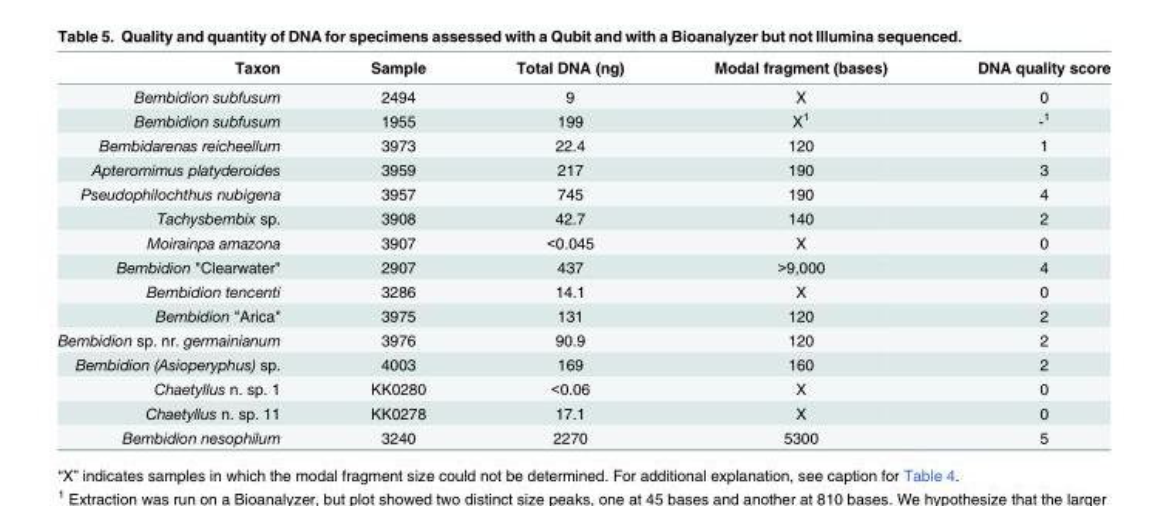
<table><thead><tr><td>Taxon</td><td>Sample</td><td>Total DNA (ng)</td><td>Modal fragment (bases)</td><td>DNA quality score</td></tr></thead><tbody><tr><td>Bembidion subfusum</td><td>2494</td><td>9</td><td>X</td><td>0</td></tr><tr><td>Bembidion subfusum</td><td>1955</td><td>199</td><td>X<sup>1</sup></td><td>-<sup>1</sup></td></tr><tr><td>Bembidarenas reicheellum</td><td>3973</td><td>22.4</td><td>120</td><td>1</td></tr><tr><td>Apteromimus platyderoides</td><td>3959</td><td>217</td><td>190</td><td>3</td></tr><tr><td>Pseudophilochthus nubigena</td><td>3957</td><td>745</td><td>190</td><td>4</td></tr><tr><td>Tachysbembix sp.</td><td>3908</td><td>42.7</td><td>140</td><td>2</td></tr><tr><td>Moirainpa amazona</td><td>3907</td><td>&lt;0.045</td><td>X</td><td>0</td></tr><tr><td>Bembidion &quot;Clearwater&quot;</td><td>2907</td><td>437</td><td>&gt;9,000</td><td>4</td></tr><tr><td>Bembidion tencenti</td><td>3286</td><td>14.1</td><td>X</td><td>0</td></tr><tr><td>Bembidion &quot;Arica&quot;</td><td>3975</td><td>131</td><td>120</td><td>2</td></tr><tr><td>Bembidion sp. nr. germainianum</td><td>3976</td><td>90.9</td><td>120</td><td>2</td></tr><tr><td>Bembidion (Asioperyphus) sp.</td><td>4003</td><td>169</td><td>160</td><td>2</td></tr><tr><td>Chaetyllus n. sp. 1</td><td>KK0280</td><td>&lt;0.06</td><td>X</td><td>0</td></tr><tr><td>Chaetyllus n. sp. 11</td><td>KK0278</td><td>17.1</td><td>X</td><td>0</td></tr><tr><td>Bembidion nesophilum</td><td>3240</td><td>2270</td><td>5300</td><td>5</td></tr></tbody></table>